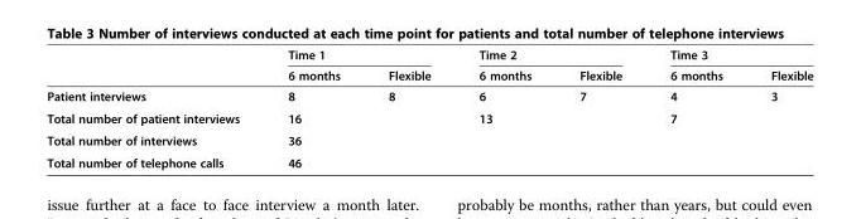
<table><thead><tr><td rowspan="2"></td><td colspan="2">Time 1</td><td colspan="2">Time 2</td><td colspan="2">Time 3</td></tr><tr><td>6 months</td><td>Flexible</td><td>6 months</td><td>Flexible</td><td>6 months</td><td>Flexible</td></tr></thead><tbody><tr><td>Patient interviews</td><td>8</td><td>8</td><td>6</td><td>7</td><td>4</td><td>3</td></tr><tr><td>Total number of patient interviews</td><td colspan="2">16</td><td colspan="2">13</td><td colspan="2">7</td></tr><tr><td>Total number of interviews</td><td colspan="6">36</td></tr><tr><td>Total number of telephone calls</td><td colspan="6">46</td></tr></tbody></table>